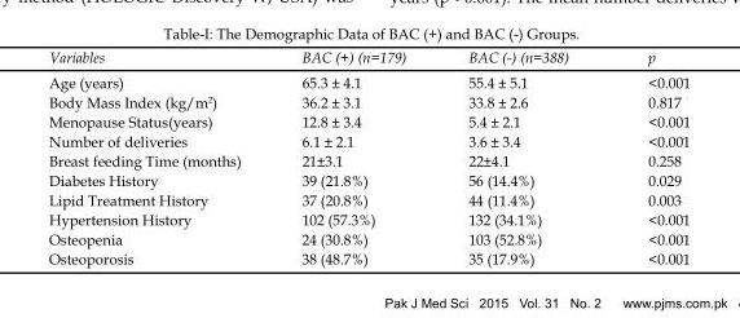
<table><thead><tr><td>Variables</td><td>BAC (+) (n=179)</td><td>BAC (-) (n=388)</td><td>p</td></tr></thead><tbody><tr><td>Age (years)</td><td>65.3 ± 4.1</td><td>55.4 ± 5.1</td><td>&lt;0.001</td></tr><tr><td>Body Mass Index (kg/m<sup>2</sup>)</td><td>36.2 ± 3.1</td><td>33.8 ± 2.6</td><td>0.817</td></tr><tr><td>Menopause Status(years)</td><td>12.8 ± 3.4</td><td>5.4 ± 2.1</td><td>&lt;0.001</td></tr><tr><td>Number of deliveries</td><td>6.1 ± 2.1</td><td>3.6 ± 3.4</td><td>&lt;0.001</td></tr><tr><td>Breast feeding Time (months)</td><td>21±3.1</td><td>22±4.1</td><td>0.258</td></tr><tr><td>Diabetes History</td><td>39 (21.8%)</td><td>56 (14.4%)</td><td>0.029</td></tr><tr><td>Lipid Treatment History</td><td>37 (20.8%)</td><td>44 (11.4%)</td><td>0.003</td></tr><tr><td>Hypertension History</td><td>102 (57.3%)</td><td>132 (34.1%)</td><td>&lt;0.001</td></tr><tr><td>Osteopenia</td><td>24 (30.8%)</td><td>103 (52.8%)</td><td>&lt;0.001</td></tr><tr><td>Osteoporosis</td><td>38 (48.7%)</td><td>35 (17.9%)</td><td>&lt;0.001</td></tr></tbody></table>